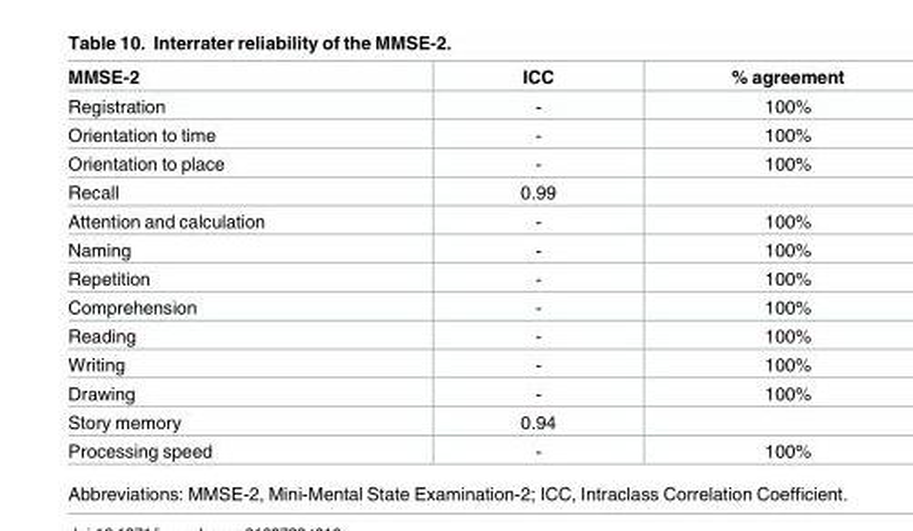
<table><thead><tr><td>MMSE-2</td><td>ICC</td><td>% agreement</td></tr></thead><tbody><tr><td>Registration</td><td>-</td><td>100%</td></tr><tr><td>Orientation to time</td><td>-</td><td>100%</td></tr><tr><td>Orientation to place</td><td>-</td><td>100%</td></tr><tr><td>Recall</td><td>0.99</td><td></td></tr><tr><td>Attention and calculation</td><td>-</td><td>100%</td></tr><tr><td>Naming</td><td>-</td><td>100%</td></tr><tr><td>Repetition</td><td>-</td><td>100%</td></tr><tr><td>Comprehension</td><td>-</td><td>100%</td></tr><tr><td>Reading</td><td>-</td><td>100%</td></tr><tr><td>Writing</td><td>-</td><td>100%</td></tr><tr><td>Drawing</td><td>-</td><td>100%</td></tr><tr><td>Story memory</td><td>0.94</td><td></td></tr><tr><td>Processing speed</td><td>-</td><td>100%</td></tr></tbody></table>